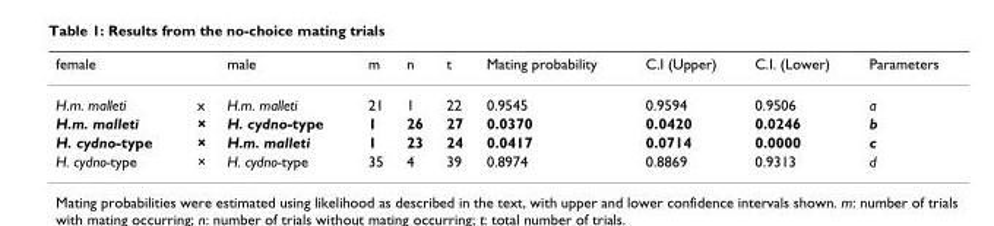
<table><thead><tr><td>female</td><td></td><td>male</td><td>m</td><td>n</td><td>t</td><td>Mating probability</td><td>C.I (Upper)</td><td>C.I. (Lower)</td><td>Parameters</td></tr></thead><tbody><tr><td>H.m. malleti</td><td>x</td><td>H.m. malleti</td><td>21</td><td>1</td><td>22</td><td>0.9545</td><td>0.9594</td><td>0.9506</td><td>a</td></tr><tr><td>H.m. malleti</td><td>×</td><td>H. cydno-type</td><td>1</td><td>26</td><td>27</td><td>0.0370</td><td>0.0420</td><td>0.0246</td><td>b</td></tr><tr><td>H. cydno-type</td><td>×</td><td>H.m. malleti</td><td>1</td><td>23</td><td>24</td><td>0.0417</td><td>0.0714</td><td>0.0000</td><td>c</td></tr><tr><td>H. cydno-type</td><td>×</td><td>H. cydno-type</td><td>35</td><td>4</td><td>39</td><td>0.8974</td><td>0.8869</td><td>0.9313</td><td>d</td></tr></tbody></table>